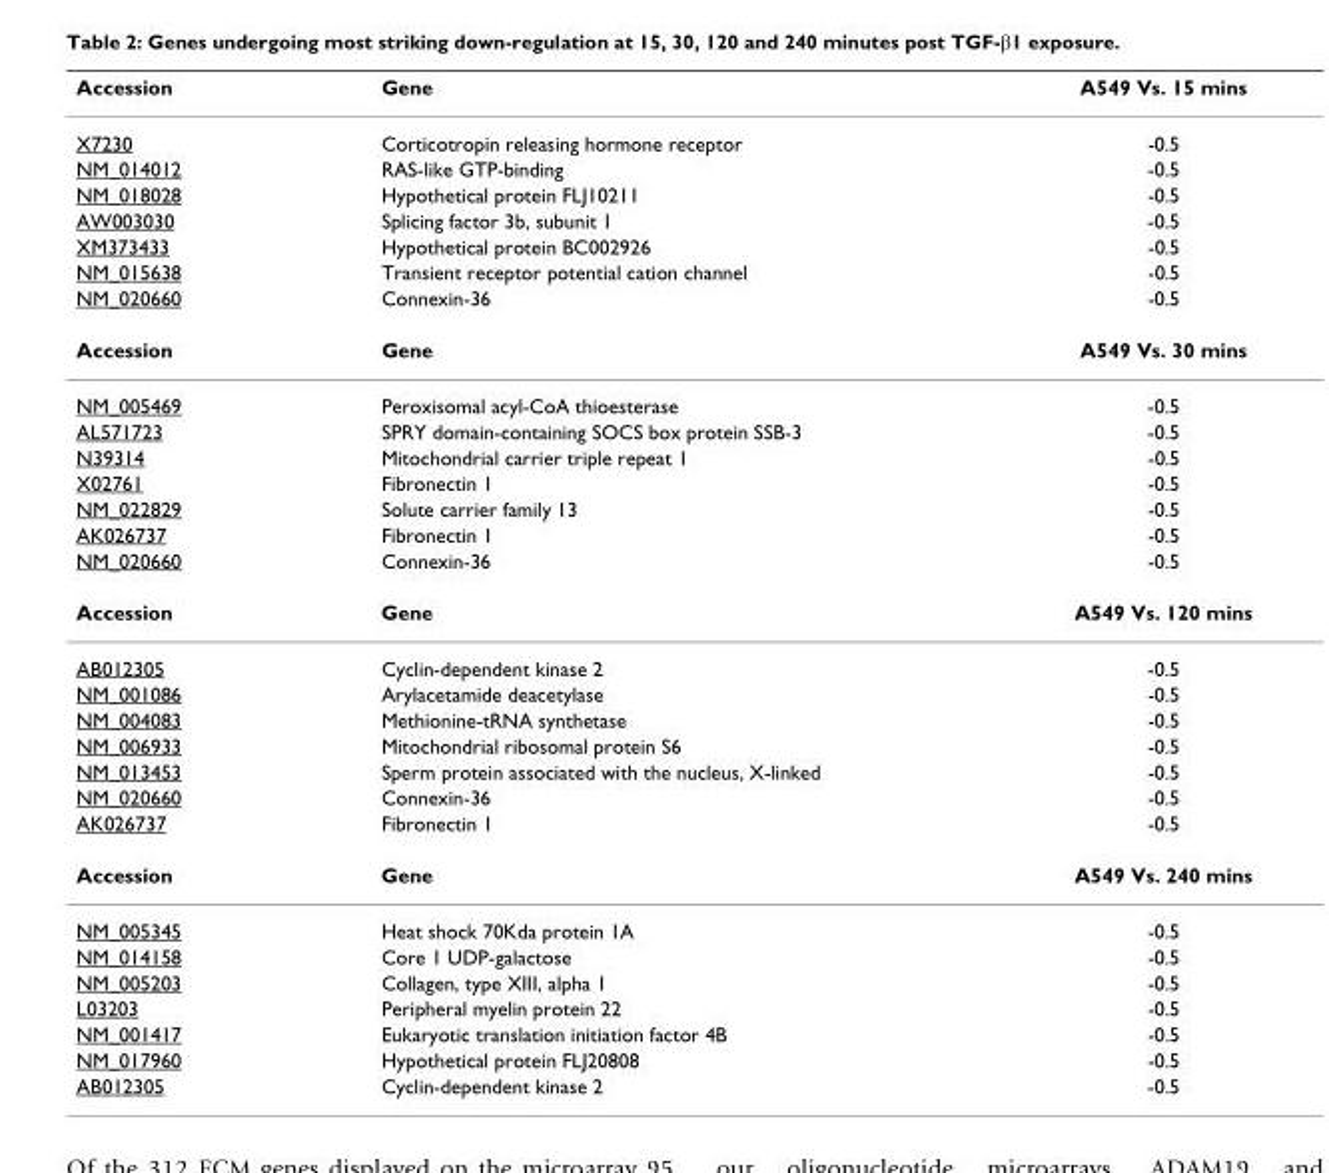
<table><thead><tr><td>Accession</td><td>Gene</td><td>A549 Vs. 15 mins</td></tr></thead><tbody><tr><td>X7230</td><td>Corticotropin releasing hormone receptor</td><td>-0.5</td></tr><tr><td>NM_014012</td><td>RAS-like GTP-binding</td><td>-0.5</td></tr><tr><td>NM_018028</td><td>Hypothetical protein FLJ10211</td><td>-0.5</td></tr><tr><td>AW003030</td><td>Splicing factor 3b, subunit 1</td><td>-0.5</td></tr><tr><td>XM373433</td><td>Hypothetical protein BC002926</td><td>-0.5</td></tr><tr><td>NM_015638</td><td>Transient receptor potential cation channel</td><td>-0.5</td></tr><tr><td>NM_020660</td><td>Connexin-36</td><td>-0.5</td></tr><tr><td>Accession</td><td>Gene</td><td>A549 Vs. 30 mins</td></tr><tr><td>NM_005469</td><td>Peroxisomal acyl-CoA thioesterase</td><td>-0.5</td></tr><tr><td>AL571723</td><td>SPRY domain-containing SOCS box protein SSB-3</td><td>-0.5</td></tr><tr><td>N39314</td><td>Mitochondrial carrier triple repeat 1</td><td>-0.5</td></tr><tr><td>X02761</td><td>Fibronectin 1</td><td>-0.5</td></tr><tr><td>NM_022829</td><td>Solute carrier family 13</td><td>-0.5</td></tr><tr><td>AK026737</td><td>Fibronectin 1</td><td>-0.5</td></tr><tr><td>NM_020660</td><td>Connexin-36</td><td>-0.5</td></tr><tr><td>Accession</td><td>Gene</td><td>A549 Vs. 120 mins</td></tr><tr><td>AB012305</td><td>Cyclin-dependent kinase 2</td><td>-0.5</td></tr><tr><td>NM_001086</td><td>Arylacetamide deacetylase</td><td>-0.5</td></tr><tr><td>NM_004083</td><td>Methionine-tRNA synthetase</td><td>-0.5</td></tr><tr><td>NM_006933</td><td>Mitochondrial ribosomal protein S6</td><td>-0.5</td></tr><tr><td>NM_013453</td><td>Sperm protein associated with the nucleus, X-linked</td><td>-0.5</td></tr><tr><td>NM_020660</td><td>Connexin-36</td><td>-0.5</td></tr><tr><td>AK026737</td><td>Fibronectin 1</td><td>-0.5</td></tr><tr><td>Accession</td><td>Gene</td><td>A549 Vs. 240 mins</td></tr><tr><td>NM_005345</td><td>Heat shock 70Kda protein 1A</td><td>-0.5</td></tr><tr><td>NM_014158</td><td>Core 1 UDP-galactose</td><td>-0.5</td></tr><tr><td>NM_005203</td><td>Collagen, type XIII, alpha 1</td><td>-0.5</td></tr><tr><td>L03203</td><td>Peripheral myelin protein 22</td><td>-0.5</td></tr><tr><td>NM_001417</td><td>Eukaryotic translation initiation factor 4B</td><td>-0.5</td></tr><tr><td>NM_017960</td><td>Hypothetical protein FLJ20808</td><td>-0.5</td></tr><tr><td>AB012305</td><td>Cyclin-dependent kinase 2</td><td>-0.5</td></tr></tbody></table>